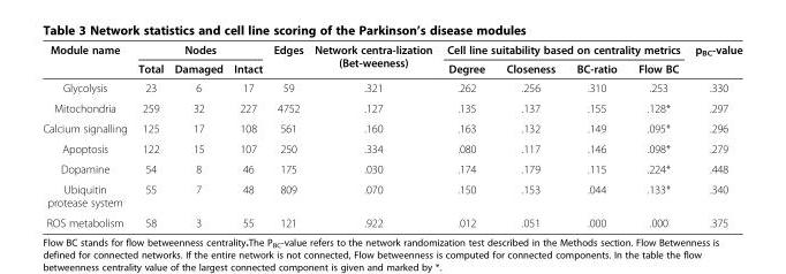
<table><thead><tr><td rowspan="2">Module name</td><td colspan="3">Nodes</td><td rowspan="2">Edges</td><td rowspan="2">Network centra-lization (Bet-weeness)</td><td colspan="4">Cell line suitability based on centrality metrics</td><td rowspan="2">p<sub>BC</sub>-value</td></tr><tr><td>Total</td><td>Damaged</td><td>Intact</td><td>Degree</td><td>Closeness</td><td>BC-ratio</td><td>Flow BC</td></tr></thead><tbody><tr><td>Glycolysis</td><td>23</td><td>6</td><td>17</td><td>59</td><td>.321</td><td>.262</td><td>.256</td><td>.310</td><td>.253</td><td>.330</td></tr><tr><td>Mitochondria</td><td>259</td><td>32</td><td>227</td><td>4752</td><td>.127</td><td>.135</td><td>.137</td><td>.155</td><td>.128*</td><td>.297</td></tr><tr><td>Calcium signalling</td><td>125</td><td>17</td><td>108</td><td>561</td><td>.160</td><td>.163</td><td>.132</td><td>.149</td><td>.095*</td><td>.296</td></tr><tr><td>Apoptosis</td><td>122</td><td>15</td><td>107</td><td>250</td><td>.334</td><td>.080</td><td>.117</td><td>.146</td><td>.098*</td><td>.279</td></tr><tr><td>Dopamine</td><td>54</td><td>8</td><td>46</td><td>175</td><td>.030</td><td>.174</td><td>.179</td><td>.115</td><td>.224*</td><td>.448</td></tr><tr><td>Ubiquitin protease system</td><td>55</td><td>7</td><td>48</td><td>809</td><td>.070</td><td>.150</td><td>.153</td><td>.044</td><td>.133*</td><td>.340</td></tr><tr><td>ROS metabolism</td><td>58</td><td>3</td><td>55</td><td>121</td><td>.922</td><td>.012</td><td>.051</td><td>.000</td><td>.000</td><td>.375</td></tr></tbody></table>